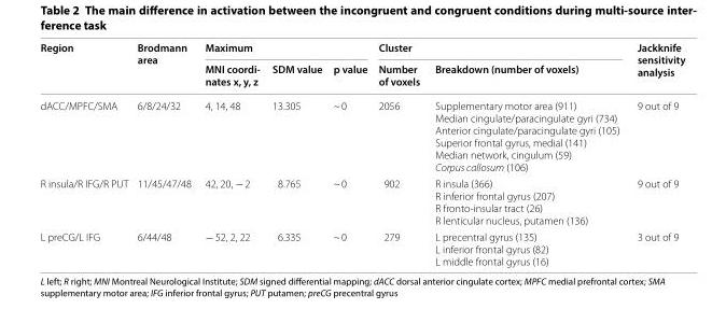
<table><thead><tr><td rowspan="2">Region</td><td rowspan="2">Brodmann area</td><td colspan="3">Maximum</td><td colspan="2">Cluster</td><td rowspan="2">Jackknife sensitivity analysis</td></tr><tr><td>MNI coordi‑ nates x, y, z</td><td>SDM value</td><td>p value</td><td>Number of voxels</td><td>Breakdown (number of voxels)</td></tr></thead><tbody><tr><td>dACC/MPFC/SMA</td><td>6/8/24/32</td><td>4, 14, 48</td><td>13.305</td><td>~ 0</td><td>2056</td><td>Supplementary motor area (911) Median cingulate/paracingulate gyri (734) Anterior cingulate/paracingulate gyri (105) Superior frontal gyrus, medial (141) Median network, cingulum (59) Corpus callosum (106)</td><td>9 out of 9</td></tr><tr><td>R insula/R IFG/R PUT</td><td>11/45/47/48</td><td>42, 20, − 2</td><td>8.765</td><td>~ 0</td><td>902</td><td>R insula (366) R inferior frontal gyrus (207) R fronto-insular tract (26) R lenticular nucleus, putamen (136)</td><td>9 out of 9</td></tr><tr><td>L preCG/L IFG</td><td>6/44/48</td><td>− 52, 2, 22</td><td>6.335</td><td>~ 0</td><td>279</td><td>L precentral gyrus (135) L inferior frontal gyrus (82) L middle frontal gyrus (16)</td><td>3 out of 9</td></tr></tbody></table>